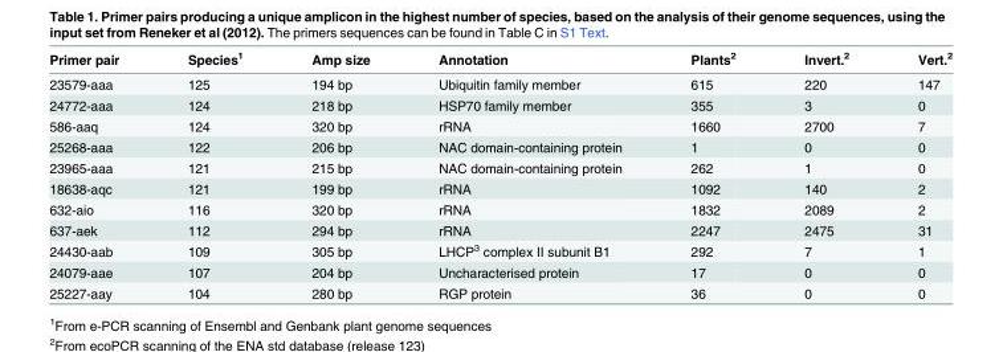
<table><thead><tr><td>Primer pair</td><td>Species<sup>1</sup></td><td>Amp size</td><td>Annotation</td><td>Plants<sup>2</sup></td><td>Invert.<sup>2</sup></td><td>Vert.<sup>2</sup></td></tr></thead><tbody><tr><td>23579-aaa</td><td>125</td><td>194 bp</td><td>Ubiquitin family member</td><td>615</td><td>220</td><td>147</td></tr><tr><td>24772-aaa</td><td>124</td><td>218 bp</td><td>HSP70 family member</td><td>355</td><td>3</td><td>0</td></tr><tr><td>586-aaq</td><td>124</td><td>320 bp</td><td>rRNA</td><td>1660</td><td>2700</td><td>7</td></tr><tr><td>25268-aaa</td><td>122</td><td>206 bp</td><td>NAC domain-containing protein</td><td>1</td><td>0</td><td>0</td></tr><tr><td>23965-aaa</td><td>121</td><td>215 bp</td><td>NAC domain-containing protein</td><td>262</td><td>1</td><td>0</td></tr><tr><td>18638-aqc</td><td>121</td><td>199 bp</td><td>rRNA</td><td>1092</td><td>140</td><td>2</td></tr><tr><td>632-aio</td><td>116</td><td>320 bp</td><td>rRNA</td><td>1832</td><td>2089</td><td>2</td></tr><tr><td>637-aek</td><td>112</td><td>294 bp</td><td>rRNA</td><td>2247</td><td>2475</td><td>31</td></tr><tr><td>24430-aab</td><td>109</td><td>305 bp</td><td>LHCP<sup>3</sup> complex II subunit B1</td><td>292</td><td>7</td><td>1</td></tr><tr><td>24079-aae</td><td>107</td><td>204 bp</td><td>Uncharacterised protein</td><td>17</td><td>0</td><td>0</td></tr><tr><td>25227-aay</td><td>104</td><td>280 bp</td><td>RGP protein</td><td>36</td><td>0</td><td>0</td></tr></tbody></table>